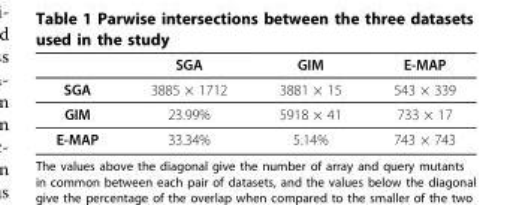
<table><thead><tr><td></td><td>SGA</td><td>GIM</td><td>E-MAP</td></tr></thead><tbody><tr><td>SGA</td><td>3885 × 1712</td><td>3881 × 15</td><td>543 × 339</td></tr><tr><td>GIM</td><td>23.99%</td><td>5918 × 41</td><td>733 × 17</td></tr><tr><td>E-MAP</td><td>33.34%</td><td>5.14%</td><td>743 × 743</td></tr></tbody></table>